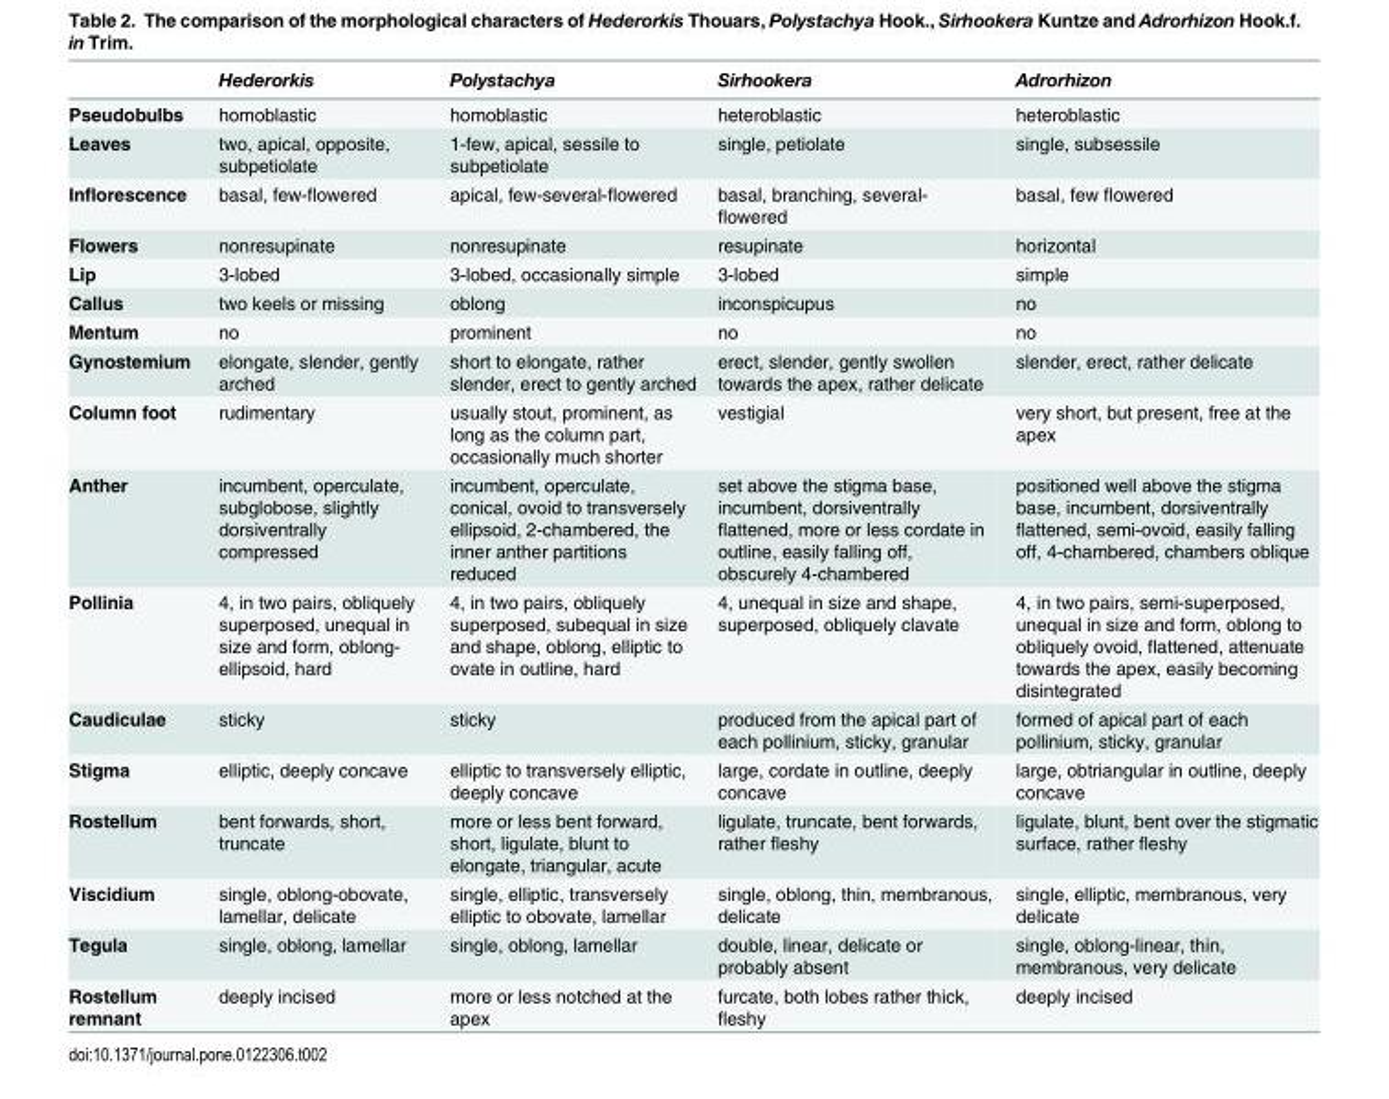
<table><thead><tr><td></td><td>Hederorkis</td><td>Polystachya</td><td>Sirhookera</td><td>Adrorhizon</td></tr></thead><tbody><tr><td>Pseudobulbs</td><td>homoblastic</td><td>homoblastic</td><td>heteroblastic</td><td>heteroblastic</td></tr><tr><td>Leaves</td><td>two, apical, opposite, subpetiolate</td><td>1-few, apical, sessile to subpetiolate</td><td>single, petiolate</td><td>single, subsessile</td></tr><tr><td>Inflorescence</td><td>basal, few-flowered</td><td>apical, few-several-flowered</td><td>basal, branching, several- flowered</td><td>basal, few flowered</td></tr><tr><td>Flowers</td><td>nonresupinate</td><td>nonresupinate</td><td>resupinate</td><td>horizontal</td></tr><tr><td>Lip</td><td>3-lobed</td><td>3-lobed, occasionally simple</td><td>3-lobed</td><td>simple</td></tr><tr><td>Callus</td><td>two keels or missing</td><td>oblong</td><td>inconspicupus</td><td>no</td></tr><tr><td>Mentum</td><td>no</td><td>prominent</td><td>no</td><td>no</td></tr><tr><td>Gynostemium</td><td>elongate, slender, gently arched</td><td>short to elongate, rather slender, erect to gently arched</td><td>erect, slender, gently swollen towards the apex, rather delicate</td><td>slender, erect, rather delicate</td></tr><tr><td>Column foot</td><td>rudimentary</td><td>usually stout, prominent, as long as the column part, occasionally much shorter</td><td>vestigial</td><td>very short, but present, free at the apex</td></tr><tr><td>Anther</td><td>incumbent, operculate, subglobose, slightly dorsiventrally compressed</td><td>incumbent, operculate, conical, ovoid to transversely ellipsoid, 2-chambered, the inner anther partitions reduced</td><td>set above the stigma base, incumbent, dorsiventrally flattened, more or less cordate in outline, easily falling off, obscurely 4-chambered</td><td>positioned well above the stigma base, incumbent, dorsiventrally flattened, semi-ovoid, easily falling off, 4-chambered, chambers oblique</td></tr><tr><td>Pollinia</td><td>4, in two pairs, obliquely superposed, unequal in size and form, oblong- ellipsoid, hard</td><td>4, in two pairs, obliquely superposed, subequal in size and shape, oblong, elliptic to ovate in outline, hard</td><td>4, unequal in size and shape, superposed, obliquely clavate</td><td>4, in two pairs, semi-superposed, unequal in size and form, oblong to obliquely ovoid, flattened, attenuate towards the apex, easily becoming disintegrated</td></tr><tr><td>Caudiculae</td><td>sticky</td><td>sticky</td><td>produced from the apical part of each pollinium, sticky, granular</td><td>formed of apical part of each pollinium, sticky, granular</td></tr><tr><td>Stigma</td><td>elliptic, deeply concave</td><td>elliptic to transversely elliptic, deeply concave</td><td>large, cordate in outline, deeply concave</td><td>large, obtriangular in outline, deeply concave</td></tr><tr><td>Rostellum</td><td>bent forwards, short, truncate</td><td>more or less bent forward, short, ligulate, blunt to elongate, triangular, acute</td><td>ligulate, truncate, bent forwards, rather fleshy</td><td>ligulate, blunt, bent over the stigmatic surface, rather fleshy</td></tr><tr><td>Viscidium</td><td>single, oblong-obovate, lamellar, delicate</td><td>single, elliptic, transversely elliptic to obovate, lamellar</td><td>single, oblong, thin, membranous, delicate</td><td>single, elliptic, membranous, very delicate</td></tr><tr><td>Tegula</td><td>single, oblong, lamellar</td><td>single, oblong, lamellar</td><td>double, linear, delicate or probably absent</td><td>single, oblong-linear, thin, membranous, very delicate</td></tr><tr><td>Rostellum remnant</td><td>deeply incised</td><td>more or less notched at the apex</td><td>furcate, both lobes rather thick, fleshy</td><td>deeply incised</td></tr></tbody></table>